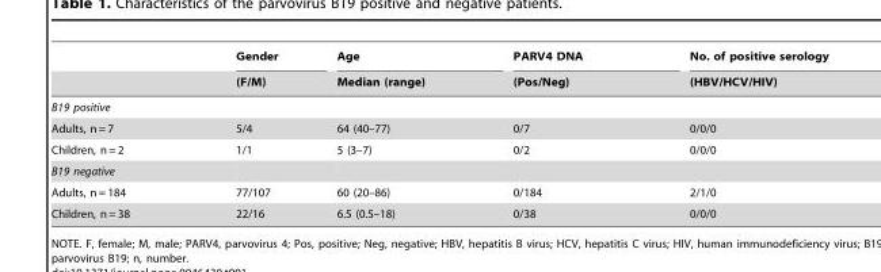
<table><thead><tr><td rowspan="2"></td><td rowspan="2">Gender (F/M)</td><td rowspan="2">Age Median (range)</td><td rowspan="2">PARV4 DNA (Pos/Neg)</td><td rowspan="2">No. of positive serology (HBV/HCV/HIV)</td></tr><tr></tr></thead><tbody><tr><td colspan="5">B19 positive</td></tr><tr><td>Adults, n = 7</td><td>5/4</td><td>64 (40–77)</td><td>0/7</td><td>0/0/0</td></tr><tr><td>Children, n = 2</td><td>1/1</td><td>5 (3–7)</td><td>0/2</td><td>0/0/0</td></tr><tr><td colspan="5">B19 negative</td></tr><tr><td>Adults, n = 184</td><td>77/107</td><td>60 (20–86)</td><td>0/184</td><td>2/1/0</td></tr><tr><td>Children, n = 38</td><td>22/16</td><td>6.5 (0.5–18)</td><td>0/38</td><td>0/0/0</td></tr></tbody></table>